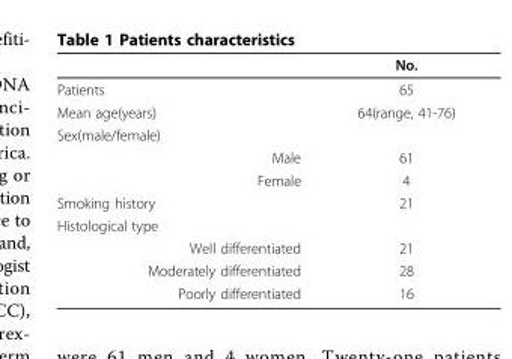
<table><thead><tr><td></td><td>No.</td></tr></thead><tbody><tr><td>Patients</td><td>65</td></tr><tr><td>Mean age(years)</td><td>64(range, 41-76)</td></tr><tr><td colspan="2">Sex(male/female)</td></tr><tr><td>Male</td><td>61</td></tr><tr><td>Female</td><td>4</td></tr><tr><td>Smoking history</td><td>21</td></tr><tr><td colspan="2">Histological type</td></tr><tr><td>Well differentiated</td><td>21</td></tr><tr><td>Moderately differentiated</td><td>28</td></tr><tr><td>Poorly differentiated</td><td>16</td></tr></tbody></table>